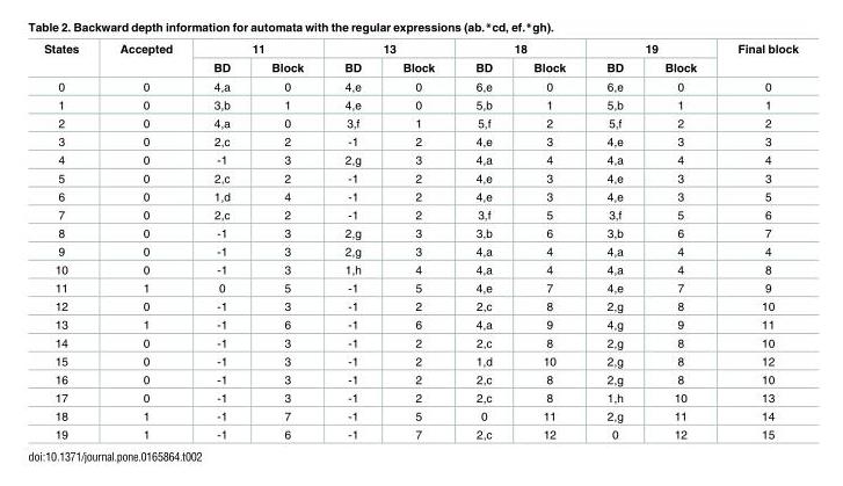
<table><thead><tr><td rowspan="2">States</td><td rowspan="2">Accepted</td><td colspan="2">11</td><td colspan="2">13</td><td colspan="2">18</td><td colspan="2">19</td><td rowspan="2">Final block</td></tr><tr><td>BD</td><td>Block</td><td>BD</td><td>Block</td><td>BD</td><td>Block</td><td>BD</td><td>Block</td></tr></thead><tbody><tr><td>0</td><td>0</td><td>4,a</td><td>0</td><td>4,e</td><td>0</td><td>6,e</td><td>0</td><td>6,e</td><td>0</td><td>0</td></tr><tr><td>1</td><td>0</td><td>3,b</td><td>1</td><td>4,e</td><td>0</td><td>5,b</td><td>1</td><td>5,b</td><td>1</td><td>1</td></tr><tr><td>2</td><td>0</td><td>4,a</td><td>0</td><td>3,f</td><td>1</td><td>5,f</td><td>2</td><td>5,f</td><td>2</td><td>2</td></tr><tr><td>3</td><td>0</td><td>2,c</td><td>2</td><td>-1</td><td>2</td><td>4,e</td><td>3</td><td>4,e</td><td>3</td><td>3</td></tr><tr><td>4</td><td>0</td><td>-1</td><td>3</td><td>2,g</td><td>3</td><td>4,a</td><td>4</td><td>4,a</td><td>4</td><td>4</td></tr><tr><td>5</td><td>0</td><td>2,c</td><td>2</td><td>-1</td><td>2</td><td>4,e</td><td>3</td><td>4,e</td><td>3</td><td>3</td></tr><tr><td>6</td><td>0</td><td>1,d</td><td>4</td><td>-1</td><td>2</td><td>4,e</td><td>3</td><td>4,e</td><td>3</td><td>5</td></tr><tr><td>7</td><td>0</td><td>2,c</td><td>2</td><td>-1</td><td>2</td><td>3,f</td><td>5</td><td>3,f</td><td>5</td><td>6</td></tr><tr><td>8</td><td>0</td><td>-1</td><td>3</td><td>2,g</td><td>3</td><td>3,b</td><td>6</td><td>3,b</td><td>6</td><td>7</td></tr><tr><td>9</td><td>0</td><td>-1</td><td>3</td><td>2,g</td><td>3</td><td>4,a</td><td>4</td><td>4,a</td><td>4</td><td>4</td></tr><tr><td>10</td><td>0</td><td>-1</td><td>3</td><td>1,h</td><td>4</td><td>4,a</td><td>4</td><td>4,a</td><td>4</td><td>8</td></tr><tr><td>11</td><td>1</td><td>0</td><td>5</td><td>-1</td><td>5</td><td>4,e</td><td>7</td><td>4,e</td><td>7</td><td>9</td></tr><tr><td>12</td><td>0</td><td>-1</td><td>3</td><td>-1</td><td>2</td><td>2,c</td><td>8</td><td>2,g</td><td>8</td><td>10</td></tr><tr><td>13</td><td>1</td><td>-1</td><td>6</td><td>-1</td><td>6</td><td>4,a</td><td>9</td><td>4,g</td><td>9</td><td>11</td></tr><tr><td>14</td><td>0</td><td>-1</td><td>3</td><td>-1</td><td>2</td><td>2,c</td><td>8</td><td>2,g</td><td>8</td><td>10</td></tr><tr><td>15</td><td>0</td><td>-1</td><td>3</td><td>-1</td><td>2</td><td>1,d</td><td>10</td><td>2,g</td><td>8</td><td>12</td></tr><tr><td>16</td><td>0</td><td>-1</td><td>3</td><td>-1</td><td>2</td><td>2,c</td><td>8</td><td>2,g</td><td>8</td><td>10</td></tr><tr><td>17</td><td>0</td><td>-1</td><td>3</td><td>-1</td><td>2</td><td>2,c</td><td>8</td><td>1,h</td><td>10</td><td>13</td></tr><tr><td>18</td><td>1</td><td>-1</td><td>7</td><td>-1</td><td>5</td><td>0</td><td>11</td><td>2,g</td><td>11</td><td>14</td></tr><tr><td>19</td><td>1</td><td>-1</td><td>6</td><td>-1</td><td>7</td><td>2,c</td><td>12</td><td>0</td><td>12</td><td>15</td></tr></tbody></table>